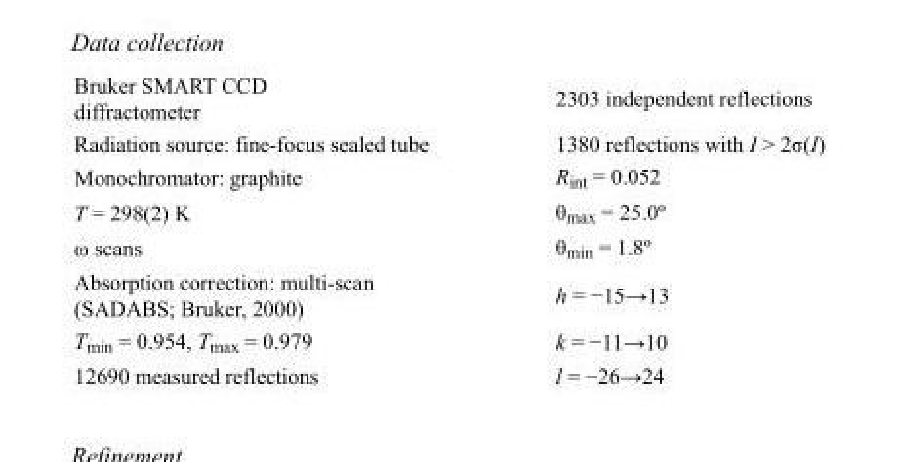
<table><tbody><tr><td>Bruker SMART CCD diffractometer</td><td>2303 independent reflections</td></tr><tr><td>Radiation source: fine-focus sealed tube</td><td>1380 reflections with I &gt; 2σ(I)</td></tr><tr><td>Monochromator: graphite</td><td>R<sub>int</sub> = 0.052</td></tr><tr><td>T = 298(2) K</td><td>θ<sub>max</sub> = 25.0º</td></tr><tr><td>ω scans</td><td>θ<sub>min</sub> = 1.8º</td></tr><tr><td>Absorption correction: multi-scan (SADABS; Bruker, 2000)</td><td>h = −15→13</td></tr><tr><td>T<sub>min</sub> = 0.954, T<sub>max</sub> = 0.979</td><td>k = −11→10</td></tr><tr><td>12690 measured reflections</td><td>l = −26→24</td></tr></tbody></table>